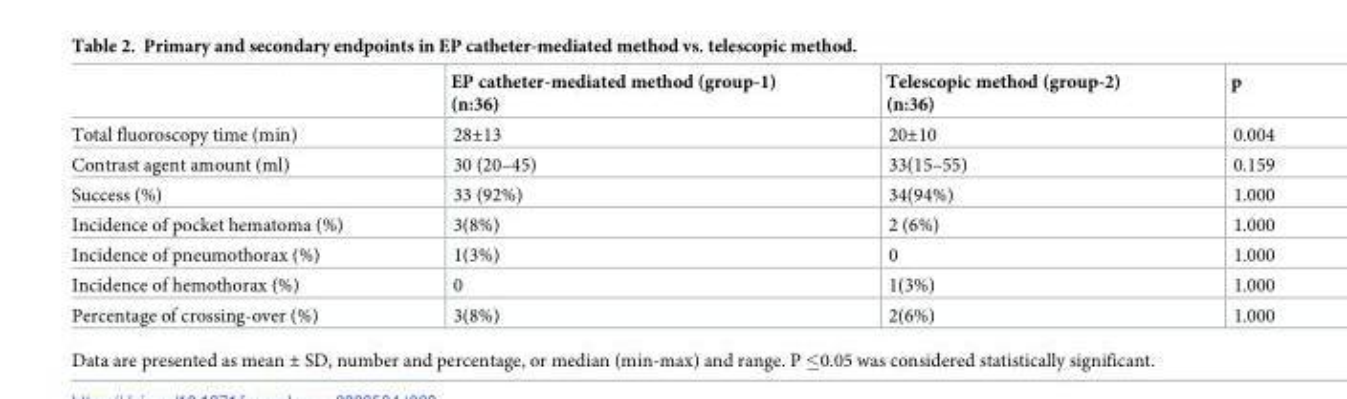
<table><thead><tr><td></td><td>EP catheter-mediated method (group-1) (n:36)</td><td>Telescopic method (group-2) (n:36)</td><td>p</td></tr></thead><tbody><tr><td>Total fluoroscopy time (min)</td><td>28±13</td><td>20±10</td><td>0.004</td></tr><tr><td>Contrast agent amount (ml)</td><td>30 (20–45)</td><td>33(15–55)</td><td>0.159</td></tr><tr><td>Success (%)</td><td>33 (92%)</td><td>34(94%)</td><td>1.000</td></tr><tr><td>Incidence of pocket hematoma (%)</td><td>3(8%)</td><td>2 (6%)</td><td>1.000</td></tr><tr><td>Incidence of pneumothorax (%)</td><td>1(3%)</td><td>0</td><td>1.000</td></tr><tr><td>Incidence of hemothorax (%)</td><td>0</td><td>1(3%)</td><td>1.000</td></tr><tr><td>Percentage of crossing-over (%)</td><td>3(8%)</td><td>2(6%)</td><td>1.000</td></tr></tbody></table>